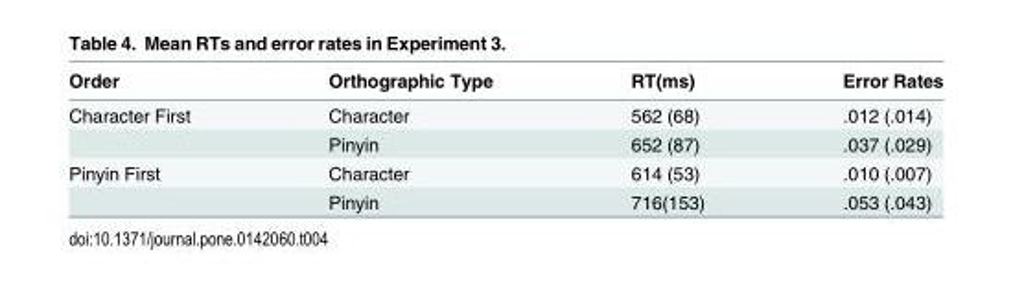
<table><thead><tr><td>Order</td><td>Orthographic Type</td><td>RT(ms)</td><td>Error Rates</td></tr></thead><tbody><tr><td rowspan="2">Character First</td><td>Character</td><td>562 (68)</td><td>.012 (.014)</td></tr><tr><td>Pinyin</td><td>652 (87)</td><td>.037 (.029)</td></tr><tr><td rowspan="2">Pinyin First</td><td>Character</td><td>614 (53)</td><td>.010 (.007)</td></tr><tr><td>Pinyin</td><td>716(153)</td><td>.053 (.043)</td></tr></tbody></table>